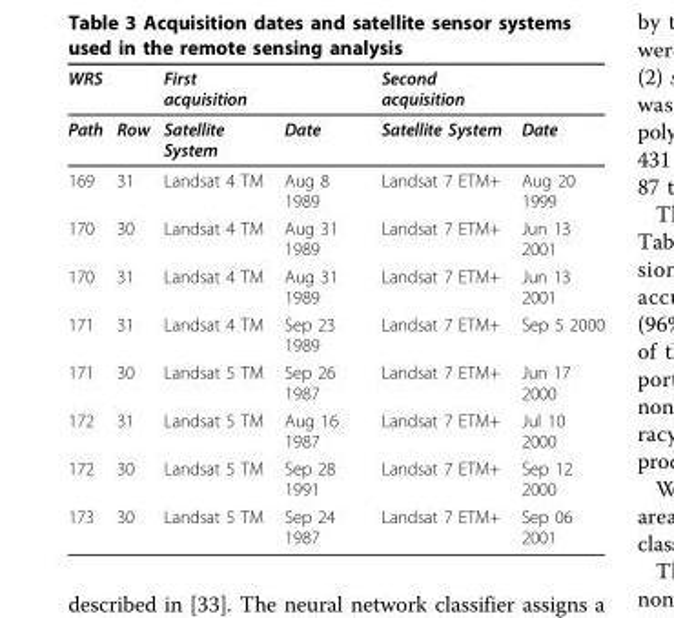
<table><thead><tr><td>WRS</td><td></td><td>First acquisition</td><td></td><td>Second acquisition</td><td></td></tr></thead><tbody><tr><td>Path</td><td>Row</td><td>Satellite System</td><td>Date</td><td>Satellite System</td><td>Date</td></tr><tr><td>169</td><td>31</td><td>Landsat 4 TM</td><td>Aug 8 1989</td><td>Landsat 7 ETM+</td><td>Aug 20 1999</td></tr><tr><td>170</td><td>30</td><td>Landsat 4 TM</td><td>Aug 31 1989</td><td>Landsat 7 ETM+</td><td>Jun 13 2001</td></tr><tr><td>170</td><td>31</td><td>Landsat 4 TM</td><td>Aug 31 1989</td><td>Landsat 7 ETM+</td><td>Jun 13 2001</td></tr><tr><td>171</td><td>31</td><td>Landsat 4 TM</td><td>Sep 23 1989</td><td>Landsat 7 ETM+</td><td>Sep 5 2000</td></tr><tr><td>171</td><td>30</td><td>Landsat 5 TM</td><td>Sep 26 1987</td><td>Landsat 7 ETM+</td><td>Jun 17 2000</td></tr><tr><td>172</td><td>31</td><td>Landsat 5 TM</td><td>Aug 16 1987</td><td>Landsat 7 ETM+</td><td>Jul 10 2000</td></tr><tr><td>172</td><td>30</td><td>Landsat 5 TM</td><td>Sep 28 1991</td><td>Landsat 7 ETM+</td><td>Sep 12 2000</td></tr><tr><td>173</td><td>30</td><td>Landsat 5 TM</td><td>Sep 24 1987</td><td>Landsat 7 ETM+</td><td>Sep 06 2001</td></tr></tbody></table>